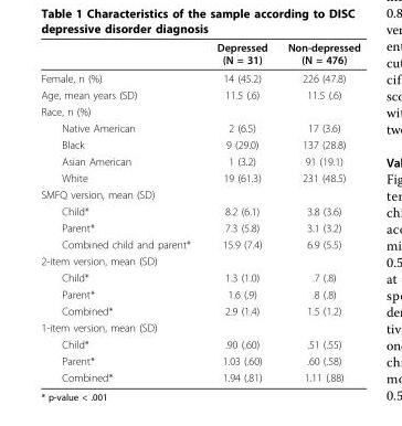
<table><thead><tr><td></td><td>Depressed (N = 31)</td><td>Non-depressed (N = 476)</td></tr></thead><tbody><tr><td>Female, n (%)</td><td>14 (45.2)</td><td>226 (47.8)</td></tr><tr><td>Age, mean years (SD)</td><td>11.5 (.6)</td><td>11.5 (.6)</td></tr><tr><td colspan="3">Race, n (%)</td></tr><tr><td>Native American</td><td>2 (6.5)</td><td>17 (3.6)</td></tr><tr><td>Black</td><td>9 (29.0)</td><td>137 (28.8)</td></tr><tr><td>Asian American</td><td>1 (3.2)</td><td>91 (19.1)</td></tr><tr><td>White</td><td>19 (61.3)</td><td>231 (48.5)</td></tr><tr><td colspan="3">SMFQ version, mean (SD)</td></tr><tr><td>Child*</td><td>8.2 (6.1)</td><td>3.8 (3.6)</td></tr><tr><td>Parent*</td><td>7.3 (5.8)</td><td>3.1 (3.2)</td></tr><tr><td>Combined child and parent*</td><td>15.9 (7.4)</td><td>6.9 (5.5)</td></tr><tr><td colspan="3">2-item version, mean (SD)</td></tr><tr><td>Child*</td><td>1.3 (1.0)</td><td>.7 (.8)</td></tr><tr><td>Parent*</td><td>1.6 (.9)</td><td>.8 (.8)</td></tr><tr><td>Combined*</td><td>2.9 (1.4)</td><td>1.5 (1.2)</td></tr><tr><td colspan="3">1-item version, mean (SD)</td></tr><tr><td>Child*</td><td>.90 (.60)</td><td>.51 (.55)</td></tr><tr><td>Parent*</td><td>1.03 (.60)</td><td>.60 (.58)</td></tr><tr><td>Combined*</td><td>1.94 (.81)</td><td>1.11 (.88)</td></tr></tbody></table>